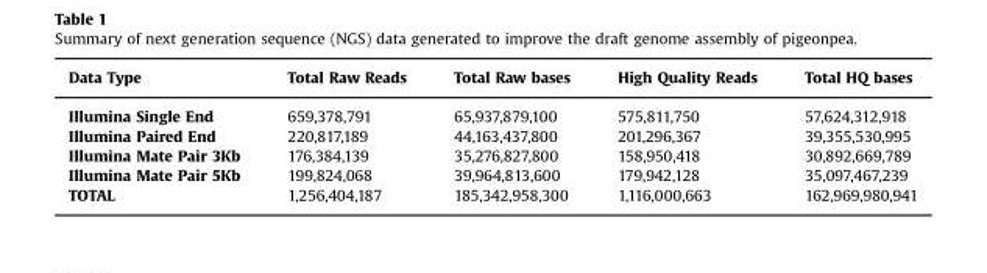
<table><thead><tr><td>Data Type</td><td>Total Raw Reads</td><td>Total Raw bases</td><td>High Quality Reads</td><td>Total HQ bases</td></tr></thead><tbody><tr><td>Illumina Single End</td><td>659,378,791</td><td>65,937,879,100</td><td>575,811,750</td><td>57,624,312,918</td></tr><tr><td>Illumina Paired End</td><td>220,817,189</td><td>44,163,437,800</td><td>201,296,367</td><td>39,355,530,995</td></tr><tr><td>Illumina Mate Pair 3Kb</td><td>176,384,139</td><td>35,276,827,800</td><td>158,950,418</td><td>30,892,669,789</td></tr><tr><td>Illumina Mate Pair 5Kb</td><td>199,824,068</td><td>39,964,813,600</td><td>179,942,128</td><td>35,097,467,239</td></tr><tr><td>TOTAL</td><td>1,256,404,187</td><td>185,342,958,300</td><td>1,116,000,663</td><td>162,969,980,941</td></tr></tbody></table>